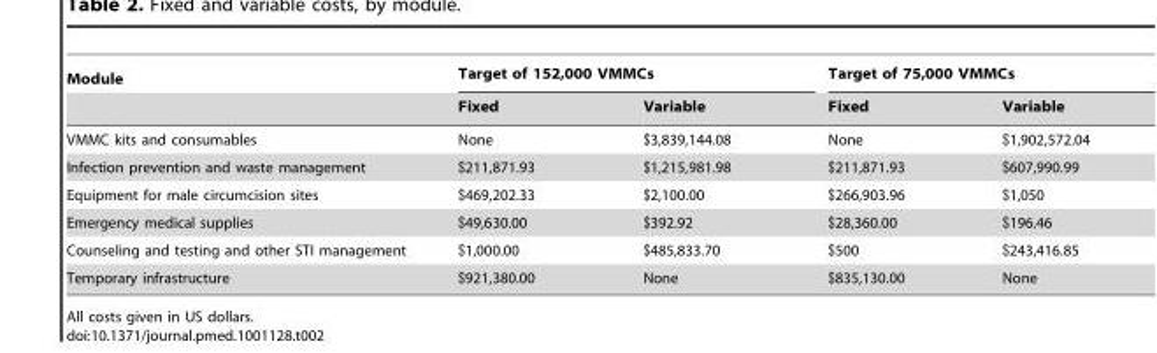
<table><thead><tr><td rowspan="2">Module</td><td colspan="2">Target of 152,000 VMMCs</td><td colspan="2">Target of 75,000 VMMCs</td></tr><tr><td>Fixed</td><td>Variable</td><td>Fixed</td><td>Variable</td></tr></thead><tbody><tr><td>VMMC kits and consumables</td><td>None</td><td>$3,839,144.08</td><td>None</td><td>$1,902,572.04</td></tr><tr><td>Infection prevention and waste management</td><td>$211,871.93</td><td>$1,215,981.98</td><td>$211,871.93</td><td>$607,990.99</td></tr><tr><td>Equipment for male circumcision sites</td><td>$469,202.33</td><td>$2,100.00</td><td>$266,903.96</td><td>$1,050</td></tr><tr><td>Emergency medical supplies</td><td>$49,630.00</td><td>$392.92</td><td>$28,360.00</td><td>$196.46</td></tr><tr><td>Counseling and testing and other STI management</td><td>$1,000.00</td><td>$485,833.70</td><td>$500</td><td>$243,416.85</td></tr><tr><td>Temporary infrastructure</td><td>$921,380.00</td><td>None</td><td>$835,130.00</td><td>None</td></tr></tbody></table>